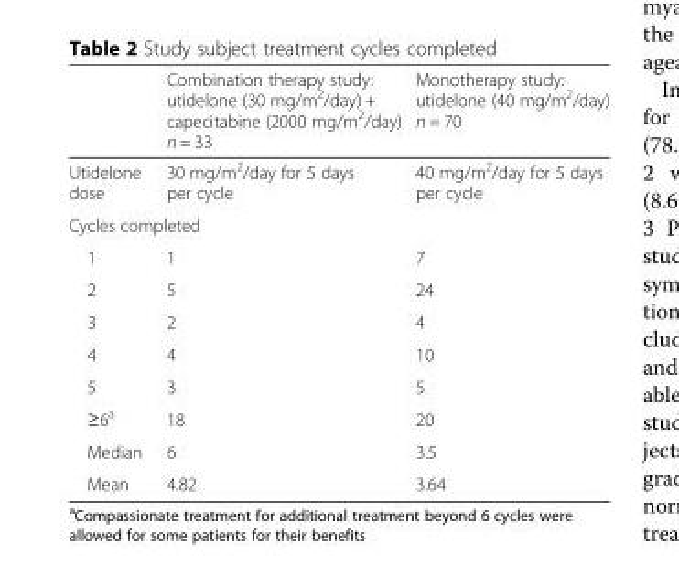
<table><thead><tr><td></td><td>Combination therapy study: utidelone (30 mg/m<sup>2</sup>/day) + capecitabine (2000 mg/m<sup>2</sup>/day) n = 33</td><td>Monotherapy study: utidelone (40 mg/m<sup>2</sup>/day) n = 70</td></tr></thead><tbody><tr><td>Utidelone dose</td><td>30 mg/m<sup>2</sup>/day for 5 days per cycle</td><td>40 mg/m<sup>2</sup>/day for 5 days per cycle</td></tr><tr><td colspan="3">Cycles completed</td></tr><tr><td>1</td><td>1</td><td>7</td></tr><tr><td>2</td><td>5</td><td>24</td></tr><tr><td>3</td><td>2</td><td>4</td></tr><tr><td>4</td><td>4</td><td>10</td></tr><tr><td>5</td><td>3</td><td>5</td></tr><tr><td>≥6<sup>a</sup></td><td>18</td><td>20</td></tr><tr><td>Median</td><td>6</td><td>3.5</td></tr><tr><td>Mean</td><td>4.82</td><td>3.64</td></tr></tbody></table>